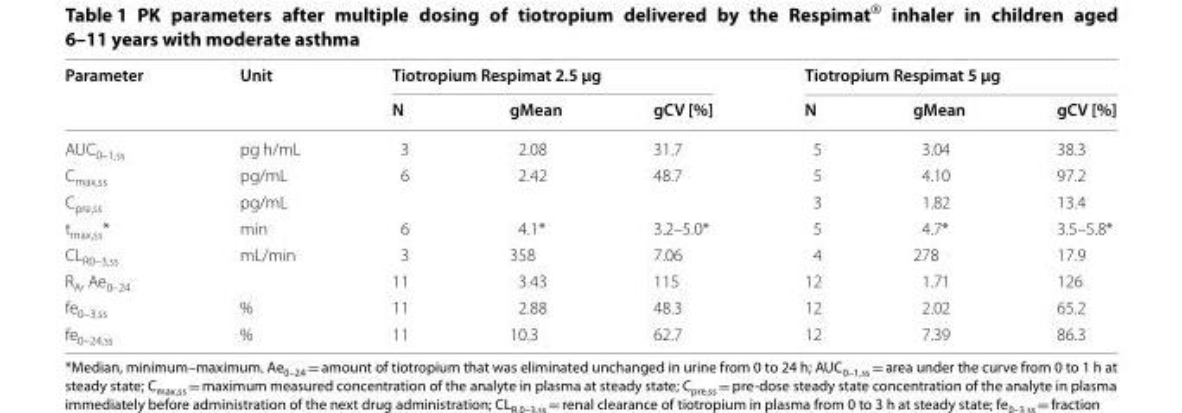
<table><thead><tr><td rowspan="2">Parameter</td><td rowspan="2">Unit</td><td colspan="3">Tiotropium Respimat 2.5 µg</td><td colspan="3">Tiotropium Respimat 5 µg</td></tr><tr><td>N</td><td>gMean</td><td>gCV [%]</td><td>N</td><td>gMean</td><td>gCV [%]</td></tr></thead><tbody><tr><td>AUC <sub>0–1,ss</sub></td><td>pg h/mL</td><td>3</td><td>2.08</td><td>31.7</td><td>5</td><td>3.04</td><td>38.3</td></tr><tr><td>C<sub>max,ss</sub></td><td>pg/mL</td><td>6</td><td>2.42</td><td>48.7</td><td>5</td><td>4.10</td><td>97.2</td></tr><tr><td>C<sub>pre,ss</sub></td><td>pg/mL</td><td></td><td></td><td></td><td>3</td><td>1.82</td><td>13.4</td></tr><tr><td>t<sub>max,ss</sub>*</td><td>min</td><td>6</td><td>4.1*</td><td>3.2–5.0*</td><td>5</td><td>4.7*</td><td>3.5–5.8*</td></tr><tr><td>CL<sub>R0–3,ss</sub></td><td>mL/min</td><td>3</td><td>358</td><td>7.06</td><td>4</td><td>278</td><td>17.9</td></tr><tr><td>R<sub>A</sub>, Ae<sub>0–24</sub></td><td></td><td>11</td><td>3.43</td><td>115</td><td>12</td><td>1.71</td><td>126</td></tr><tr><td>fe<sub>0–3,ss</sub></td><td>%</td><td>11</td><td>2.88</td><td>48.3</td><td>12</td><td>2.02</td><td>65.2</td></tr><tr><td>fe<sub>0–24,ss</sub></td><td>%</td><td>11</td><td>10.3</td><td>62.7</td><td>12</td><td>7.39</td><td>86.3</td></tr></tbody></table>